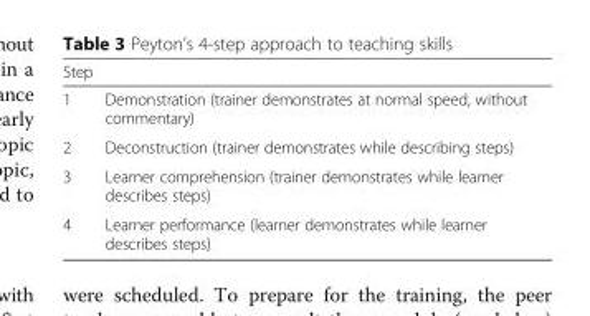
<table><thead><tr><td>Step</td><td></td></tr></thead><tbody><tr><td>1</td><td>Demonstration (trainer demonstrates at normal speed, without commentary)</td></tr><tr><td>2</td><td>Deconstruction (trainer demonstrates while describing steps)</td></tr><tr><td>3</td><td>Learner comprehension (trainer demonstrates while learner describes steps)</td></tr><tr><td>4</td><td>Learner performance (learner demonstrates while learner describes steps)</td></tr></tbody></table>